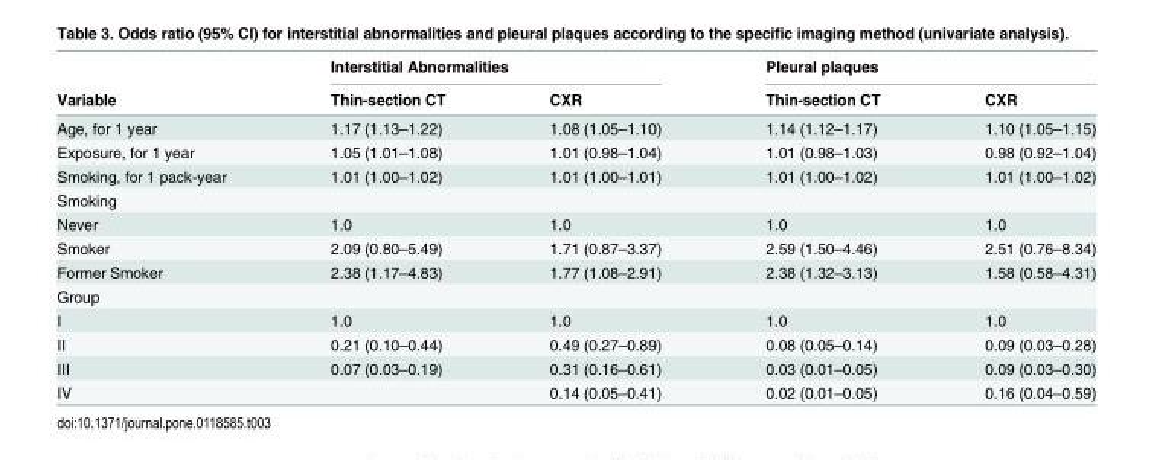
<table><thead><tr><td rowspan="2">Variable</td><td colspan="2">Interstitial Abnormalities</td><td colspan="2">Pleural plaques</td></tr><tr><td>Thin-section CT</td><td>CXR</td><td>Thin-section CT</td><td>CXR</td></tr></thead><tbody><tr><td>Age, for 1 year</td><td>1.17 (1.13–1.22)</td><td>1.08 (1.05–1.10)</td><td>1.14 (1.12–1.17)</td><td>1.10 (1.05–1.15)</td></tr><tr><td>Exposure, for 1 year</td><td>1.05 (1.01–1.08)</td><td>1.01 (0.98–1.04)</td><td>1.01 (0.98–1.03)</td><td>0.98 (0.92–1.04)</td></tr><tr><td>Smoking, for 1 pack-year</td><td>1.01 (1.00–1.02)</td><td>1.01 (1.00–1.01)</td><td>1.01 (1.00–1.02)</td><td>1.01 (1.00–1.02)</td></tr><tr><td colspan="5">Smoking</td></tr><tr><td>Never</td><td>1.0</td><td>1.0</td><td>1.0</td><td>1.0</td></tr><tr><td>Smoker</td><td>2.09 (0.80–5.49)</td><td>1.71 (0.87–3.37)</td><td>2.59 (1.50–4.46)</td><td>2.51 (0.76–8.34)</td></tr><tr><td>Former Smoker</td><td>2.38 (1.17–4.83)</td><td>1.77 (1.08–2.91)</td><td>2.38 (1.32–3.13)</td><td>1.58 (0.58–4.31)</td></tr><tr><td colspan="5">Group</td></tr><tr><td>I</td><td>1.0</td><td>1.0</td><td>1.0</td><td>1.0</td></tr><tr><td>II</td><td>0.21 (0.10–0.44)</td><td>0.49 (0.27–0.89)</td><td>0.08 (0.05–0.14)</td><td>0.09 (0.03–0.28)</td></tr><tr><td>III</td><td>0.07 (0.03–0.19)</td><td>0.31 (0.16–0.61)</td><td>0.03 (0.01–0.05)</td><td>0.09 (0.03–0.30)</td></tr><tr><td>IV</td><td></td><td>0.14 (0.05–0.41)</td><td>0.02 (0.01–0.05)</td><td>0.16 (0.04–0.59)</td></tr></tbody></table>